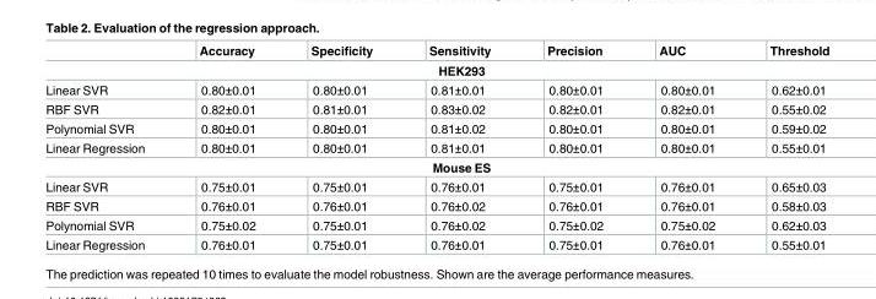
<table><thead><tr><td></td><td>Accuracy</td><td>Specificity</td><td>Sensitivity</td><td>Precision</td><td>AUC</td><td>Threshold</td></tr></thead><tbody><tr><td colspan="7">HEK293</td></tr><tr><td>Linear SVR</td><td>0.80±0.01</td><td>0.80±0.01</td><td>0.81±0.01</td><td>0.80±0.01</td><td>0.80±0.01</td><td>0.62±0.01</td></tr><tr><td>RBF SVR</td><td>0.82±0.01</td><td>0.81±0.01</td><td>0.83±0.02</td><td>0.82±0.01</td><td>0.82±0.01</td><td>0.55±0.02</td></tr><tr><td>Polynomial SVR</td><td>0.80±0.01</td><td>0.80±0.01</td><td>0.81±0.02</td><td>0.80±0.01</td><td>0.80±0.01</td><td>0.59±0.02</td></tr><tr><td>Linear Regression</td><td>0.80±0.01</td><td>0.80±0.01</td><td>0.81±0.01</td><td>0.80±0.01</td><td>0.80±0.01</td><td>0.55±0.01</td></tr><tr><td colspan="7">Mouse ES</td></tr><tr><td>Linear SVR</td><td>0.75±0.01</td><td>0.75±0.01</td><td>0.76±0.01</td><td>0.75±0.01</td><td>0.76±0.01</td><td>0.65±0.03</td></tr><tr><td>RBF SVR</td><td>0.76±0.01</td><td>0.76±0.01</td><td>0.76±0.02</td><td>0.76±0.01</td><td>0.76±0.01</td><td>0.58±0.03</td></tr><tr><td>Polynomial SVR</td><td>0.75±0.02</td><td>0.75±0.01</td><td>0.76±0.02</td><td>0.75±0.02</td><td>0.75±0.02</td><td>0.62±0.03</td></tr><tr><td>Linear Regression</td><td>0.76±0.01</td><td>0.75±0.01</td><td>0.76±0.01</td><td>0.75±0.01</td><td>0.76±0.01</td><td>0.55±0.01</td></tr></tbody></table>